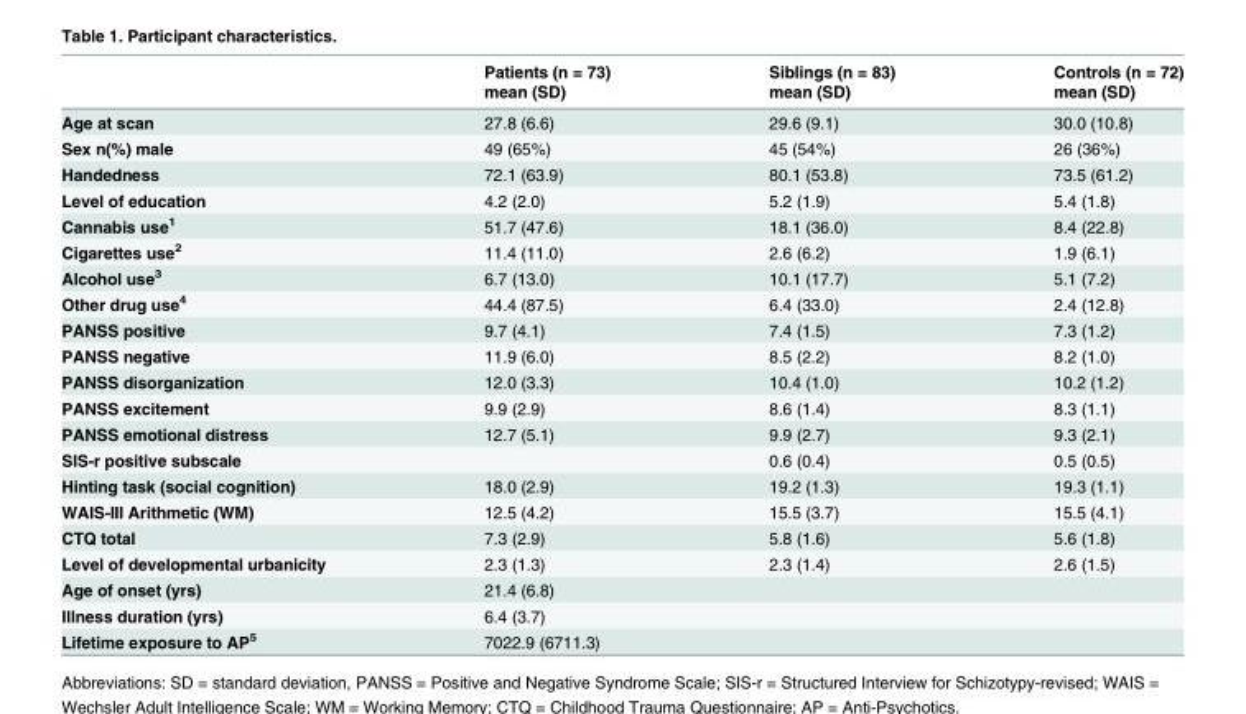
<table><thead><tr><td rowspan="2"></td><td rowspan="2">Patients (n = 73) mean (SD)</td><td rowspan="2">Siblings (n = 83) mean (SD)</td><td rowspan="2">Controls (n = 72) mean (SD)</td></tr><tr></tr></thead><tbody><tr><td>Age at scan</td><td>27.8 (6.6)</td><td>29.6 (9.1)</td><td>30.0 (10.8)</td></tr><tr><td>Sex n(%) male</td><td>49 (65%)</td><td>45 (54%)</td><td>26 (36%)</td></tr><tr><td>Handedness</td><td>72.1 (63.9)</td><td>80.1 (53.8)</td><td>73.5 (61.2)</td></tr><tr><td>Level of education</td><td>4.2 (2.0)</td><td>5.2 (1.9)</td><td>5.4 (1.8)</td></tr><tr><td>Cannabis use<sup>1</sup></td><td>51.7 (47.6)</td><td>18.1 (36.0)</td><td>8.4 (22.8)</td></tr><tr><td>Cigarettes use<sup>2</sup></td><td>11.4 (11.0)</td><td>2.6 (6.2)</td><td>1.9 (6.1)</td></tr><tr><td>Alcohol use<sup>3</sup></td><td>6.7 (13.0)</td><td>10.1 (17.7)</td><td>5.1 (7.2)</td></tr><tr><td>Other drug use<sup>4</sup></td><td>44.4 (87.5)</td><td>6.4 (33.0)</td><td>2.4 (12.8)</td></tr><tr><td>PANSS positive</td><td>9.7 (4.1)</td><td>7.4 (1.5)</td><td>7.3 (1.2)</td></tr><tr><td>PANSS negative</td><td>11.9 (6.0)</td><td>8.5 (2.2)</td><td>8.2 (1.0)</td></tr><tr><td>PANSS disorganization</td><td>12.0 (3.3)</td><td>10.4 (1.0)</td><td>10.2 (1.2)</td></tr><tr><td>PANSS excitement</td><td>9.9 (2.9)</td><td>8.6 (1.4)</td><td>8.3 (1.1)</td></tr><tr><td>PANSS emotional distress</td><td>12.7 (5.1)</td><td>9.9 (2.7)</td><td>9.3 (2.1)</td></tr><tr><td>SIS-r positive subscale</td><td></td><td>0.6 (0.4)</td><td>0.5 (0.5)</td></tr><tr><td>Hinting task (social cognition)</td><td>18.0 (2.9)</td><td>19.2 (1.3)</td><td>19.3 (1.1)</td></tr><tr><td>WAIS-III Arithmetic (WM)</td><td>12.5 (4.2)</td><td>15.5 (3.7)</td><td>15.5 (4.1)</td></tr><tr><td>CTQ total</td><td>7.3 (2.9)</td><td>5.8 (1.6)</td><td>5.6 (1.8)</td></tr><tr><td>Level of developmental urbanicity</td><td>2.3 (1.3)</td><td>2.3 (1.4)</td><td>2.6 (1.5)</td></tr><tr><td>Age of onset (yrs)</td><td>21.4 (6.8)</td><td></td><td></td></tr><tr><td>Illness duration (yrs)</td><td>6.4 (3.7)</td><td></td><td></td></tr><tr><td>Lifetime exposure to AP<sup>5</sup></td><td>7022.9 (6711.3)</td><td></td><td></td></tr></tbody></table>